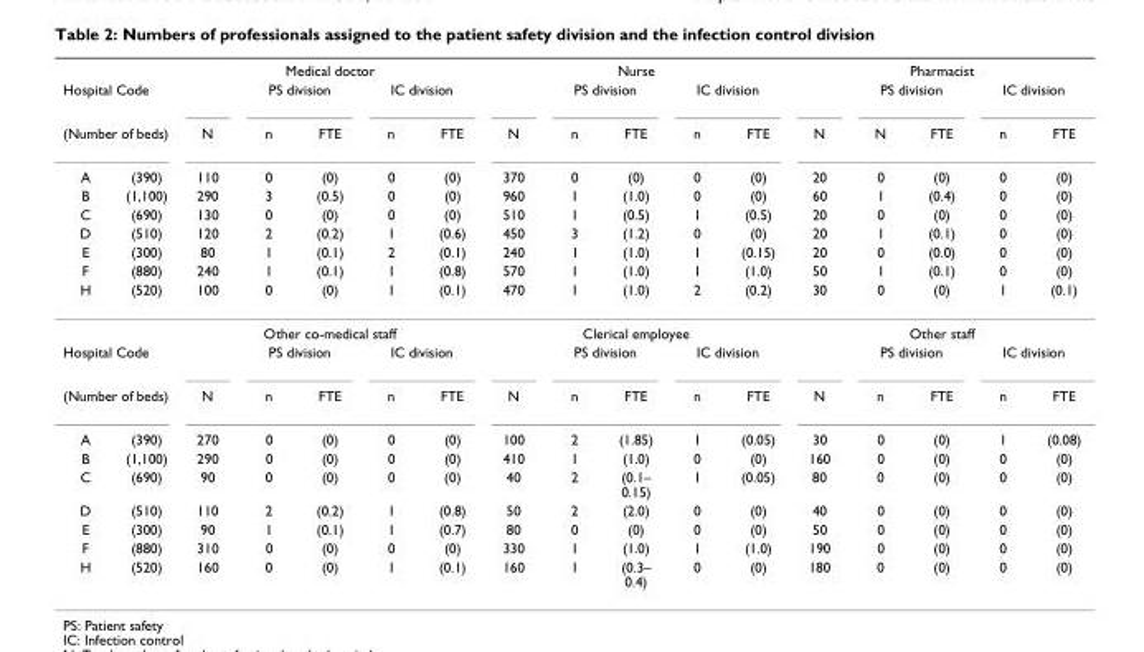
<table><thead><tr><td></td><td></td><td colspan="5">Medical doctor</td><td colspan="5">Nurse</td><td colspan="5">Pharmacist</td></tr><tr><td rowspan="2" colspan="2">Hospital Code (Number of beds)</td><td rowspan="9">N 110 290 130 120 80 240 100</td><td colspan="2">PS division</td><td colspan="2">IC division</td><td rowspan="9">N 370 960 510 450 240 570 470</td><td colspan="2">PS division</td><td colspan="2">IC division</td><td rowspan="9">N 20 60 20 20 20 50 30</td><td colspan="2">PS division</td><td colspan="2">IC division</td></tr><tr><td rowspan="8">n 0 3 0 2 1 1 0</td><td rowspan="8">FTE (0) (0.5) (0) (0.2) (0.1) (0.1) (0)</td><td rowspan="8">n 0 0 0 1 2 1 1</td><td rowspan="8">FTE (0) (0) (0) (0.6) (0.1) (0.8) (0.1)</td><td rowspan="8">n 0 1 1 3 1 1 1</td><td rowspan="8">FTE (0) (1.0) (0.5) (1.2) (1.0) (1.0) (1.0)</td><td rowspan="8">n 0 0 1 0 1 1 2</td><td rowspan="8">FTE (0) (0) (0.5) (0) (0.15) (1.0) (0.2)</td><td rowspan="8">N 0 1 0 1 0 1 0</td><td rowspan="8">FTE (0) (0.4) (0) (0.1) (0.0) (0.1) (0)</td><td rowspan="8">n 0 0 0 0 0 0 1</td><td rowspan="8">FTE (0) (0) (0) (0) (0) (0) (0.1)</td></tr><tr><td rowspan="7">A B C D E F H</td><td rowspan="7">(390) (1,100) (690) (510) (300) (880) (520)</td></tr><tr></tr><tr></tr><tr></tr><tr></tr><tr></tr><tr></tr></thead><tbody><tr><td></td><td></td><td colspan="5">Other co-medical staff</td><td colspan="5">Clerical employee</td><td colspan="5">Other staff</td></tr><tr><td colspan="2">Hospital Code</td><td></td><td colspan="2">PS division</td><td colspan="2">IC division</td><td></td><td colspan="2">PS division</td><td colspan="2">IC division</td><td></td><td colspan="2">PS division</td><td colspan="2">IC division</td></tr><tr><td colspan="2">(Number of beds)</td><td>N</td><td>n</td><td>FTE</td><td>n</td><td>FTE</td><td>N</td><td>n</td><td>FTE</td><td>n</td><td>FTE</td><td>N</td><td>n</td><td>FTE</td><td>n</td><td>FTE</td></tr><tr><td>A</td><td>(390)</td><td>270</td><td>0</td><td>(0)</td><td>0</td><td>(0)</td><td>100</td><td>2</td><td>(1.85)</td><td>1</td><td>(0.05)</td><td>30</td><td>0</td><td>(0)</td><td>1</td><td>(0.08)</td></tr><tr><td>B</td><td>(1,100)</td><td>290</td><td>0</td><td>(0)</td><td>0</td><td>(0)</td><td>410</td><td>1</td><td>(1.0)</td><td>0</td><td>(0)</td><td>160</td><td>0</td><td>(0)</td><td>0</td><td>(0)</td></tr><tr><td>C</td><td>(690)</td><td>90</td><td>0</td><td>(0)</td><td>0</td><td>(0)</td><td>40</td><td>2</td><td>(0.1– 0.15)</td><td>1</td><td>(0.05)</td><td>80</td><td>0</td><td>(0)</td><td>0</td><td>(0)</td></tr><tr><td>D</td><td>(510)</td><td>110</td><td>2</td><td>(0.2)</td><td>1</td><td>(0.8)</td><td>50</td><td>2</td><td>(2.0)</td><td>0</td><td>(0)</td><td>40</td><td>0</td><td>(0)</td><td>0</td><td>(0)</td></tr><tr><td>E</td><td>(300)</td><td>90</td><td>1</td><td>(0.1)</td><td>1</td><td>(0.7)</td><td>80</td><td>0</td><td>(0)</td><td>0</td><td>(0)</td><td>50</td><td>0</td><td>(0)</td><td>0</td><td>(0)</td></tr><tr><td>F</td><td>(880)</td><td>310</td><td>0</td><td>(0)</td><td>0</td><td>(0)</td><td>330</td><td>1</td><td>(1.0)</td><td>1</td><td>(1.0)</td><td>190</td><td>0</td><td>(0)</td><td>0</td><td>(0)</td></tr><tr><td>H</td><td>(520)</td><td>160</td><td>0</td><td>(0)</td><td>1</td><td>(0.1)</td><td>160</td><td>1</td><td>(0.3– 0.4)</td><td>0</td><td>(0)</td><td>180</td><td>0</td><td>(0)</td><td>0</td><td>(0)</td></tr></tbody></table>